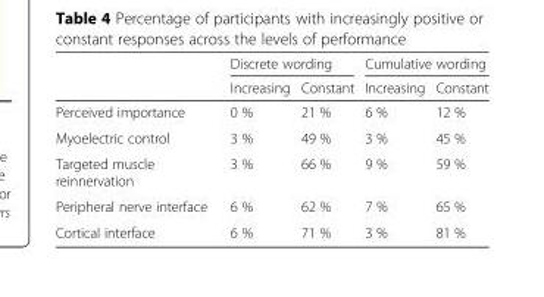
<table><thead><tr><td rowspan="2"></td><td colspan="2">Discrete wording</td><td colspan="2">Cumulative wording</td></tr><tr><td>Increasing</td><td>Constant</td><td>Increasing</td><td>Constant</td></tr></thead><tbody><tr><td>Perceived importance</td><td>0 %</td><td>21 %</td><td>6 %</td><td>12 %</td></tr><tr><td>Myoelectric control</td><td>3 %</td><td>49 %</td><td>3 %</td><td>45 %</td></tr><tr><td>Targeted muscle reinnervation</td><td>3 %</td><td>66 %</td><td>9 %</td><td>59 %</td></tr><tr><td>Peripheral nerve interface</td><td>6 %</td><td>62 %</td><td>7 %</td><td>65 %</td></tr><tr><td>Cortical interface</td><td>6 %</td><td>71 %</td><td>3 %</td><td>81 %</td></tr></tbody></table>